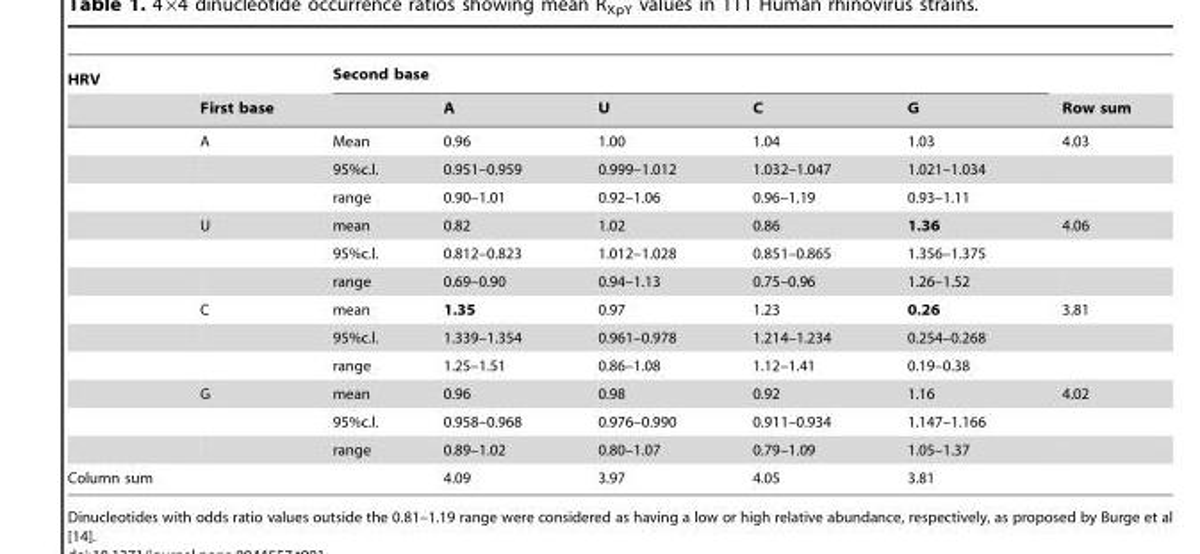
<table><thead><tr><td rowspan="2">HRV</td><td rowspan="2">First base</td><td colspan="5">Second base</td><td rowspan="2">Row sum</td></tr><tr><td></td><td>A</td><td>U</td><td>C</td><td>G</td></tr></thead><tbody><tr><td></td><td>A</td><td>Mean</td><td>0.96</td><td>1.00</td><td>1.04</td><td>1.03</td><td>4.03</td></tr><tr><td></td><td></td><td>95%c.l.</td><td>0.951–0.959</td><td>0.999–1.012</td><td>1.032–1.047</td><td>1.021–1.034</td><td></td></tr><tr><td></td><td></td><td>range</td><td>0.90–1.01</td><td>0.92–1.06</td><td>0.96–1.19</td><td>0.93–1.11</td><td></td></tr><tr><td></td><td>U</td><td>mean</td><td>0.82</td><td>1.02</td><td>0.86</td><td>1.36</td><td>4.06</td></tr><tr><td></td><td></td><td>95%c.l.</td><td>0.812–0.823</td><td>1.012–1.028</td><td>0.851–0.865</td><td>1.356–1.375</td><td></td></tr><tr><td></td><td></td><td>range</td><td>0.69–0.90</td><td>0.94–1.13</td><td>0.75–0.96</td><td>1.26–1.52</td><td></td></tr><tr><td></td><td>C</td><td>mean</td><td>1.35</td><td>0.97</td><td>1.23</td><td>0.26</td><td>3.81</td></tr><tr><td></td><td></td><td>95%c.l.</td><td>1.339–1.354</td><td>0.961–0.978</td><td>1.214–1.234</td><td>0.254–0.268</td><td></td></tr><tr><td></td><td></td><td>range</td><td>1.25–1.51</td><td>0.86–1.08</td><td>1.12–1.41</td><td>0.19–0.38</td><td></td></tr><tr><td></td><td>G</td><td>mean</td><td>0.96</td><td>0.98</td><td>0.92</td><td>1.16</td><td>4.02</td></tr><tr><td></td><td></td><td>95%c.l.</td><td>0.958–0.968</td><td>0.976–0.990</td><td>0.911–0.934</td><td>1.147–1.166</td><td></td></tr><tr><td></td><td></td><td>range</td><td>0.89–1.02</td><td>0.80–1.07</td><td>0.79–1.09</td><td>1.05–1.37</td><td></td></tr><tr><td>Column sum</td><td></td><td></td><td>4.09</td><td>3.97</td><td>4.05</td><td>3.81</td><td></td></tr></tbody></table>